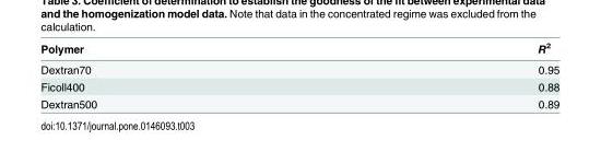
<table><thead><tr><td>Polymer</td><td>R<sup>2</sup></td></tr></thead><tbody><tr><td>Dextran70</td><td>0.95</td></tr><tr><td>Ficoll400</td><td>0.88</td></tr><tr><td>Dextran500</td><td>0.89</td></tr></tbody></table>